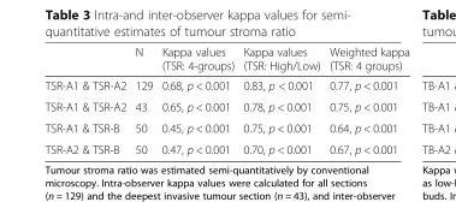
<table><thead><tr><td></td><td>N</td><td>Kappa values (TSR: 4-groups)</td><td>Kappa values (TSR: High/Low)</td><td>Weighted kappa (TSR: 4 groups)</td></tr></thead><tbody><tr><td>TSR-A1 &amp; TSR-A2</td><td>129</td><td>0.68, p &lt; 0.001</td><td>0.83, p &lt; 0.001</td><td>0.77, p &lt; 0.001</td></tr><tr><td>TSR-A1 &amp; TSR-A2</td><td>43</td><td>0.65, p &lt; 0.001</td><td>0.78, p &lt; 0.001</td><td>0.75, p &lt; 0.001</td></tr><tr><td>TSR-A1 &amp; TSR-B</td><td>50</td><td>0.45, p &lt; 0.001</td><td>0.75, p &lt; 0.001</td><td>0.64, p &lt; 0.001</td></tr><tr><td>TSR-A2 &amp; TSR-B</td><td>50</td><td>0.47, p &lt; 0.001</td><td>0.70, p &lt; 0.001</td><td>0.67, p &lt; 0.001</td></tr></tbody></table>